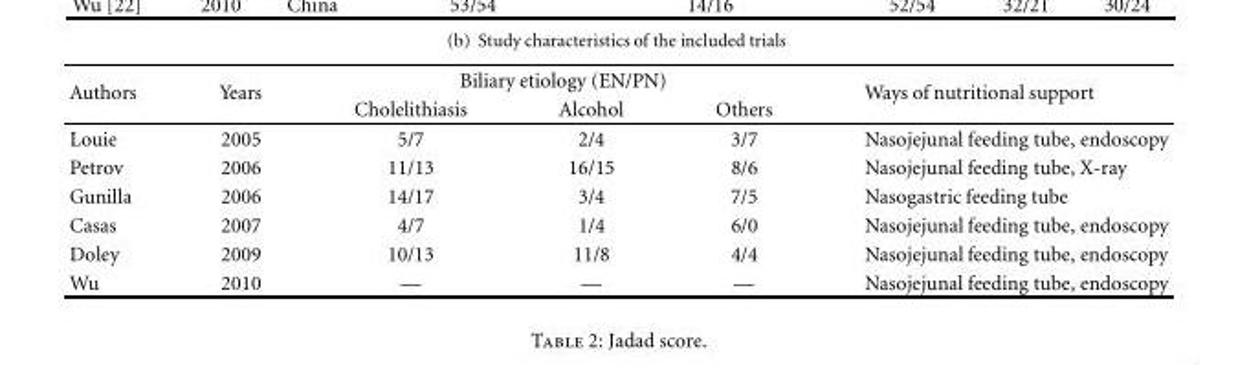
<table><tbody><tr><td rowspan="2">Authors</td><td rowspan="2">Years</td><td colspan="3">Biliary etiology (EN/PN)</td><td rowspan="2">Ways of nutritional support</td></tr><tr><td>Cholelithiasis</td><td>Alcohol</td><td>Others</td></tr><tr><td>Louie</td><td>2005</td><td>5/7</td><td>2/4</td><td>3/7</td><td>Nasojejunal feeding tube, endoscopy</td></tr><tr><td>Petrov</td><td>2006</td><td>11/13</td><td>16/15</td><td>8/6</td><td>Nasojejunal feeding tube, X-ray</td></tr><tr><td>Gunilla</td><td>2006</td><td>14/17</td><td>3/4</td><td>7/5</td><td>Nasogastric feeding tube</td></tr><tr><td>Casas</td><td>2007</td><td>4/7</td><td>1/4</td><td>6/0</td><td>Nasojejunal feeding tube, endoscopy</td></tr><tr><td>Doley</td><td>2009</td><td>10/13</td><td>11/8</td><td>4/4</td><td>Nasojejunal feeding tube, endoscopy</td></tr><tr><td>Wu</td><td>2010</td><td>—</td><td>—</td><td>—</td><td>Nasojejunal feeding tube, endoscopy</td></tr></tbody></table>